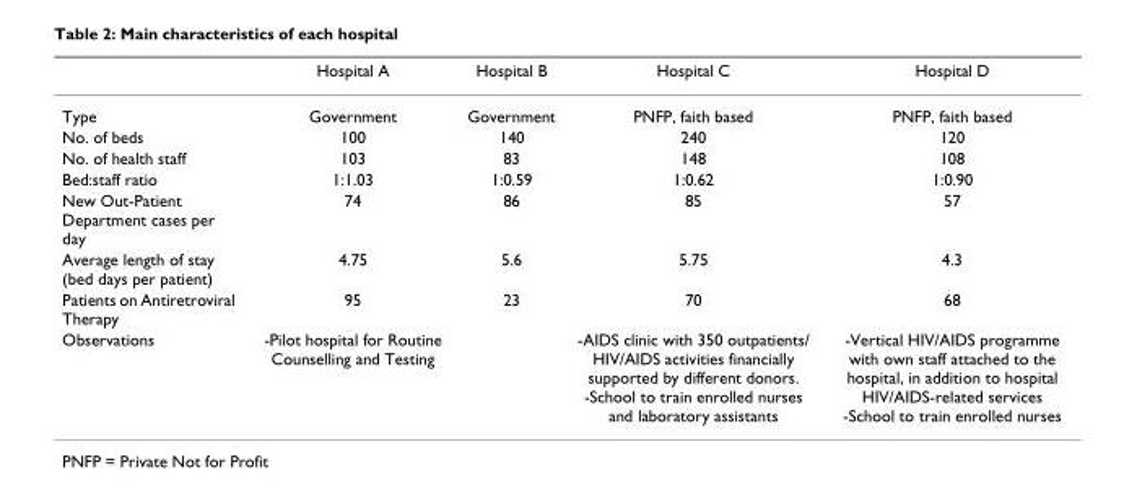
<table><thead><tr><td></td><td>Hospital A</td><td>Hospital B</td><td>Hospital C</td><td>Hospital D</td></tr></thead><tbody><tr><td>Type</td><td>Government</td><td>Government</td><td>PNFP, faith based</td><td>PNFP, faith based</td></tr><tr><td>No. of beds</td><td>100</td><td>140</td><td>240</td><td>120</td></tr><tr><td>No. of health staff</td><td>103</td><td>83</td><td>148</td><td>108</td></tr><tr><td>Bed:staff ratio</td><td>1:1.03</td><td>1:0.59</td><td>1:0.62</td><td>1:0.90</td></tr><tr><td>New Out-Patient Department cases per day</td><td>74</td><td>86</td><td>85</td><td>57</td></tr><tr><td>Average length of stay (bed days per patient)</td><td>4.75</td><td>5.6</td><td>5.75</td><td>4.3</td></tr><tr><td>Patients on Antiretroviral Therapy</td><td>95</td><td>23</td><td>70</td><td>68</td></tr><tr><td>Observations</td><td>-Pilot hospital for Routine Counselling and Testing</td><td></td><td>-AIDS clinic with 350 outpatients/ HIV/AIDS activities financially supported by different donors. -School to train enrolled nurses and laboratory assistants</td><td>-Vertical HIV/AIDS programme with own staff attached to the hospital, in addition to hospital HIV/AIDS-related services -School to train enrolled nurses</td></tr></tbody></table>